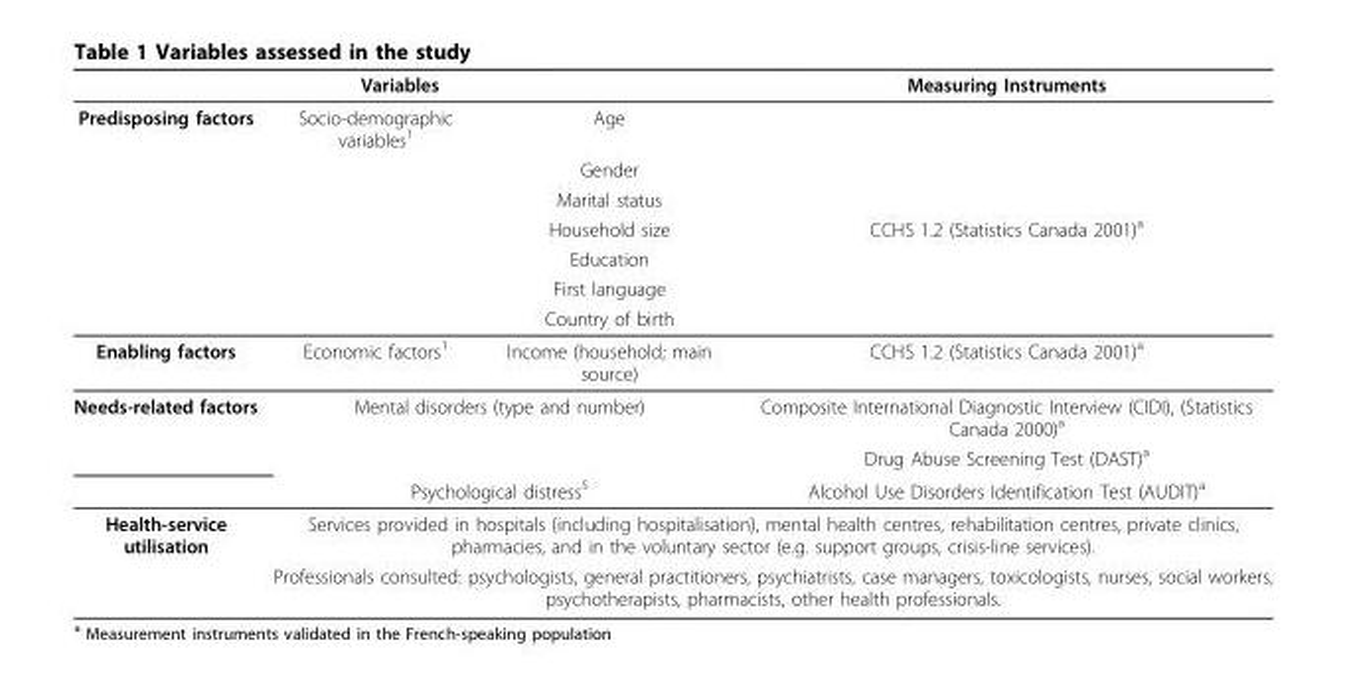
<table><thead><tr><td colspan="3">Variables</td><td rowspan="2">Measuring Instruments</td></tr><tr><td>Predisposing factors</td><td>Socio-demographic variables<sup>1</sup></td><td>Age</td></tr></thead><tbody><tr><td></td><td></td><td>Gender</td><td></td></tr><tr><td></td><td></td><td>Marital status</td><td></td></tr><tr><td></td><td></td><td>Household size</td><td>CCHS 1.2 (Statistics Canada 2001)<sup>a</sup></td></tr><tr><td></td><td></td><td>Education</td><td></td></tr><tr><td></td><td></td><td>First language</td><td></td></tr><tr><td></td><td></td><td>Country of birth</td><td></td></tr><tr><td>Enabling factors</td><td>Economic factors<sup>1</sup></td><td>Income (household; main source)</td><td>CCHS 1.2 (Statistics Canada 2001)<sup>a</sup></td></tr><tr><td rowspan="3">Needs-related factors</td><td colspan="2">Mental disorders (type and number)</td><td>Composite International Diagnostic Interview (CIDI), (Statistics Canada 2000)<sup>a</sup></td></tr><tr><td></td><td></td><td>Drug Abuse Screening Test (DAST)<sup>a</sup></td></tr><tr><td colspan="2">Psychological distress<sup>5</sup></td><td>Alcohol Use Disorders Identification Test (AUDIT)<sup>a</sup></td></tr><tr><td rowspan="2">Health-service utilisation</td><td colspan="3">Services provided in hospitals (including hospitalisation), mental health centres, rehabilitation centres, private clinics, pharmacies, and in the voluntary sector (e.g. support groups, crisis-line services).</td></tr><tr><td colspan="3">Professionals consulted: psychologists, general practitioners, psychiatrists, case managers, toxicologists, nurses, social workers, psychotherapists, pharmacists, other health professionals.</td></tr></tbody></table>